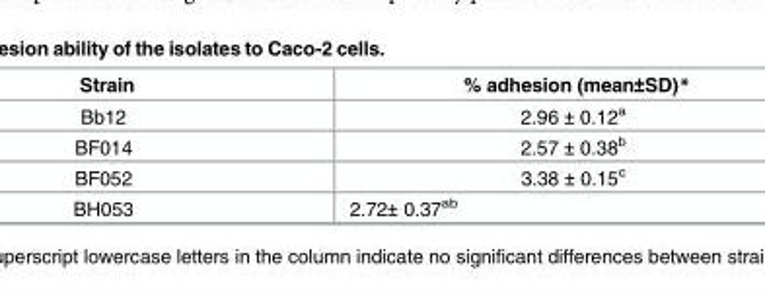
<table><thead><tr><td>Strain</td><td>% adhesion (mean±SD)*</td></tr></thead><tbody><tr><td>Bb12</td><td>2.96 ± 0.12<sup>a</sup></td></tr><tr><td>BF014</td><td>2.57 ± 0.38<sup>b</sup></td></tr><tr><td>BF052</td><td>3.38 ± 0.15<sup>c</sup></td></tr><tr><td>BH053</td><td>2.72± 0.37<sup>ab</sup></td></tr></tbody></table>